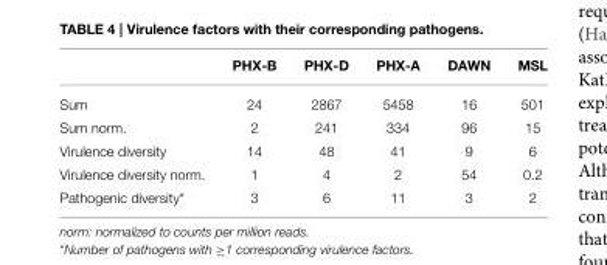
<table><thead><tr><td></td><td>PHX-B</td><td>PHX-D</td><td>PHX-A</td><td>DAWN</td><td>MSL</td></tr></thead><tbody><tr><td>Sum</td><td>24</td><td>2867</td><td>5458</td><td>16</td><td>501</td></tr><tr><td>Sum norm.</td><td>2</td><td>241</td><td>334</td><td>96</td><td>15</td></tr><tr><td>Virulence diversity</td><td>14</td><td>48</td><td>41</td><td>9</td><td>6</td></tr><tr><td>Virulence diversity norm.</td><td>1</td><td>4</td><td>2</td><td>54</td><td>0.2</td></tr><tr><td>Pathogenic diversity*</td><td>3</td><td>6</td><td>11</td><td>3</td><td>2</td></tr></tbody></table>